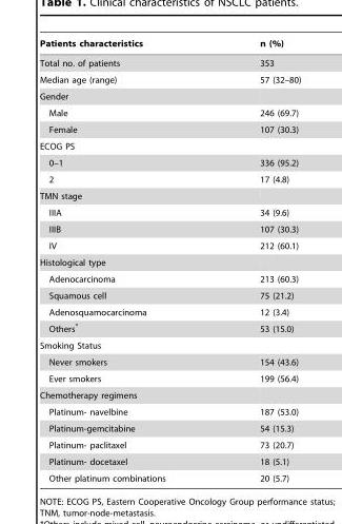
<table><thead><tr><td>Patients characteristics</td><td>n (%)</td></tr></thead><tbody><tr><td>Total no. of patients</td><td>353</td></tr><tr><td>Median age (range)</td><td>57 (32–80)</td></tr><tr><td colspan="2">Gender</td></tr><tr><td>Male</td><td>246 (69.7)</td></tr><tr><td>Female</td><td>107 (30.3)</td></tr><tr><td colspan="2">ECOG PS</td></tr><tr><td>0–1</td><td>336 (95.2)</td></tr><tr><td>2</td><td>17 (4.8)</td></tr><tr><td colspan="2">TMN stage</td></tr><tr><td>IIIA</td><td>34 (9.6)</td></tr><tr><td>IIIB</td><td>107 (30.3)</td></tr><tr><td>IV</td><td>212 (60.1)</td></tr><tr><td colspan="2">Histological type</td></tr><tr><td>Adenocarcinoma</td><td>213 (60.3)</td></tr><tr><td>Squamous cell</td><td>75 (21.2)</td></tr><tr><td>Adenosquamocarcinoma</td><td>12 (3.4)</td></tr><tr><td>Others*</td><td>53 (15.0)</td></tr><tr><td colspan="2">Smoking Status</td></tr><tr><td>Never smokers</td><td>154 (43.6)</td></tr><tr><td>Ever smokers</td><td>199 (56.4)</td></tr><tr><td colspan="2">Chemotherapy regimens</td></tr><tr><td>Platinum- navelbine</td><td>187 (53.0)</td></tr><tr><td>Platinum-gemcitabine</td><td>54 (15.3)</td></tr><tr><td>Platinum- paclitaxel</td><td>73 (20.7)</td></tr><tr><td>Platinum- docetaxel</td><td>18 (5.1)</td></tr><tr><td>Other platinum combinations</td><td>20 (5.7)</td></tr></tbody></table>